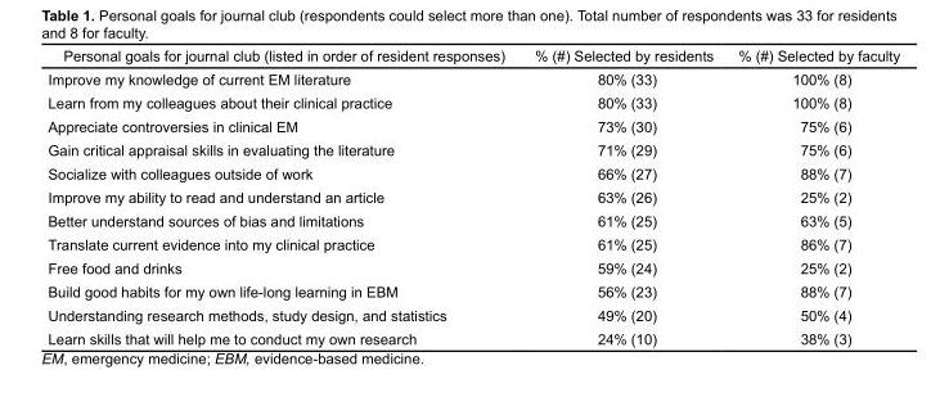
<table><thead><tr><td>Personal goals for journal club (listed in order of resident responses)</td><td>% (#) Selected by residents</td><td>% (#) Selected by faculty</td></tr></thead><tbody><tr><td>Improve my knowledge of current EM literature</td><td>80% (33)</td><td>100% (8)</td></tr><tr><td>Learn from my colleagues about their clinical practice</td><td>80% (33)</td><td>100% (8)</td></tr><tr><td>Appreciate controversies in clinical EM</td><td>73% (30)</td><td>75% (6)</td></tr><tr><td>Gain critical appraisal skills in evaluating the literature</td><td>71% (29)</td><td>75% (6)</td></tr><tr><td>Socialize with colleagues outside of work</td><td>66% (27)</td><td>88% (7)</td></tr><tr><td>Improve my ability to read and understand an article</td><td>63% (26)</td><td>25% (2)</td></tr><tr><td>Better understand sources of bias and limitations</td><td>61% (25)</td><td>63% (5)</td></tr><tr><td>Translate current evidence into my clinical practice</td><td>61% (25)</td><td>86% (7)</td></tr><tr><td>Free food and drinks</td><td>59% (24)</td><td>25% (2)</td></tr><tr><td>Build good habits for my own life-long learning in EBM</td><td>56% (23)</td><td>88% (7)</td></tr><tr><td>Understanding research methods, study design, and statistics</td><td>49% (20)</td><td>50% (4)</td></tr><tr><td>Learn skills that will help me to conduct my own research</td><td>24% (10)</td><td>38% (3)</td></tr></tbody></table>